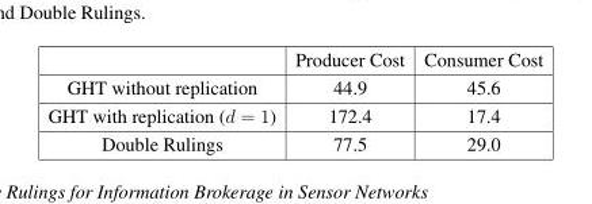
<table><thead><tr><td></td><td>Producer Cost</td><td>Consumer Cost</td></tr></thead><tbody><tr><td>GHT without replication</td><td>44.9</td><td>45.6</td></tr><tr><td>GHT with replication (d = 1)</td><td>172.4</td><td>17.4</td></tr><tr><td>Double Rulings</td><td>77.5</td><td>29.0</td></tr></tbody></table>